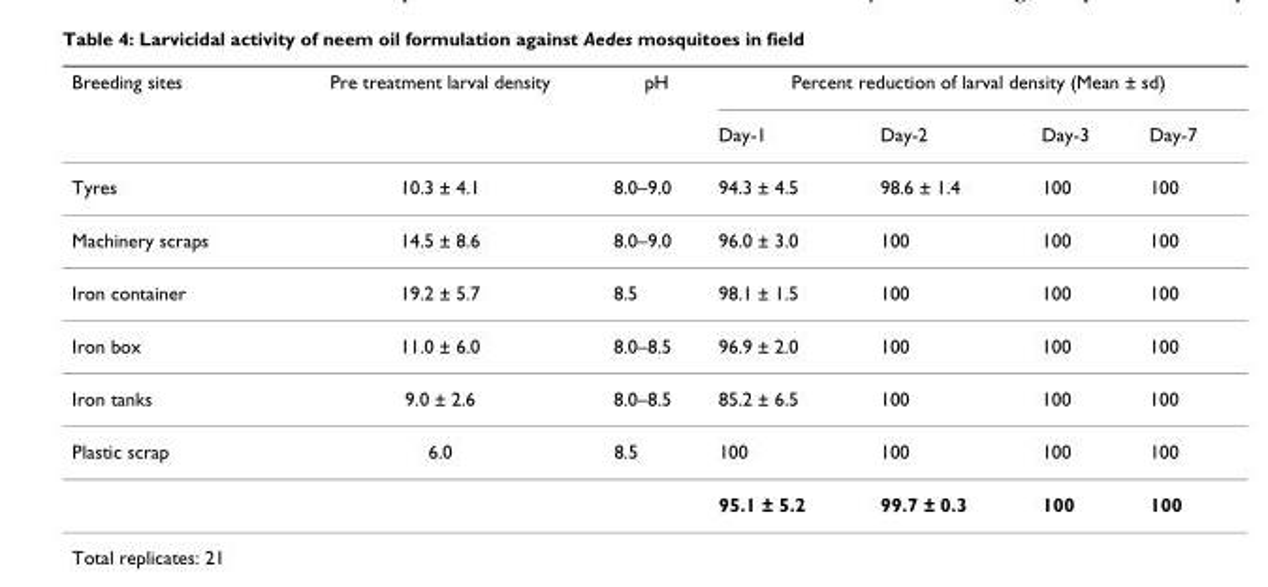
<table><thead><tr><td rowspan="2">Breeding sites</td><td rowspan="2">Pre treatment larval density</td><td rowspan="2">pH</td><td colspan="4">Percent reduction of larval density (Mean ± sd)</td></tr><tr><td>Day-1</td><td>Day-2</td><td>Day-3</td><td>Day-7</td></tr></thead><tbody><tr><td>Tyres</td><td>10.3 ± 4.1</td><td>8.0–9.0</td><td>94.3 ± 4.5</td><td>98.6 ± 1.4</td><td>100</td><td>100</td></tr><tr><td>Machinery scraps</td><td>14.5 ± 8.6</td><td>8.0–9.0</td><td>96.0 ± 3.0</td><td>100</td><td>100</td><td>100</td></tr><tr><td>Iron container</td><td>19.2 ± 5.7</td><td>8.5</td><td>98.1 ± 1.5</td><td>100</td><td>100</td><td>100</td></tr><tr><td>Iron box</td><td>11.0 ± 6.0</td><td>8.0–8.5</td><td>96.9 ± 2.0</td><td>100</td><td>100</td><td>100</td></tr><tr><td>Iron tanks</td><td>9.0 ± 2.6</td><td>8.0–8.5</td><td>85.2 ± 6.5</td><td>100</td><td>100</td><td>100</td></tr><tr><td rowspan="2">Plastic scrap</td><td>6.0</td><td>8.5</td><td>100</td><td>100</td><td>100</td><td>100</td></tr><tr><td></td><td></td><td>95.1 ± 5.2</td><td>99.7 ± 0.3</td><td>100</td><td>100</td></tr></tbody></table>